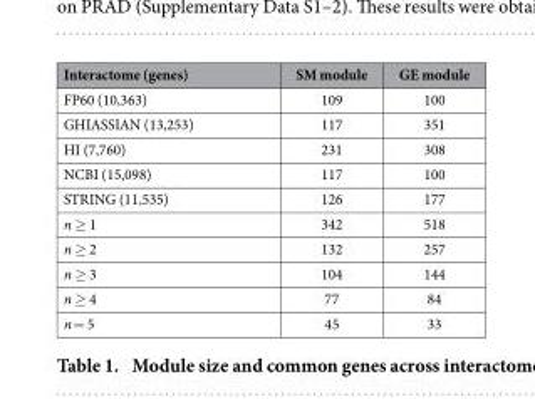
<table><thead><tr><td>Interactome (genes)</td><td>SM module</td><td>GE module</td></tr></thead><tbody><tr><td>FP60 (10,363)</td><td>109</td><td>100</td></tr><tr><td>GHIASSIAN (13,253)</td><td>117</td><td>351</td></tr><tr><td>HI (7,760)</td><td>231</td><td>308</td></tr><tr><td>NCBI (15,098)</td><td>117</td><td>100</td></tr><tr><td>STRING (11,535)</td><td>126</td><td>177</td></tr><tr><td>n ≥ 1</td><td>342</td><td>518</td></tr><tr><td>n ≥ 2</td><td>132</td><td>257</td></tr><tr><td>n ≥ 3</td><td>104</td><td>144</td></tr><tr><td>n ≥ 4</td><td>77</td><td>84</td></tr><tr><td>n = 5</td><td>45</td><td>33</td></tr></tbody></table>